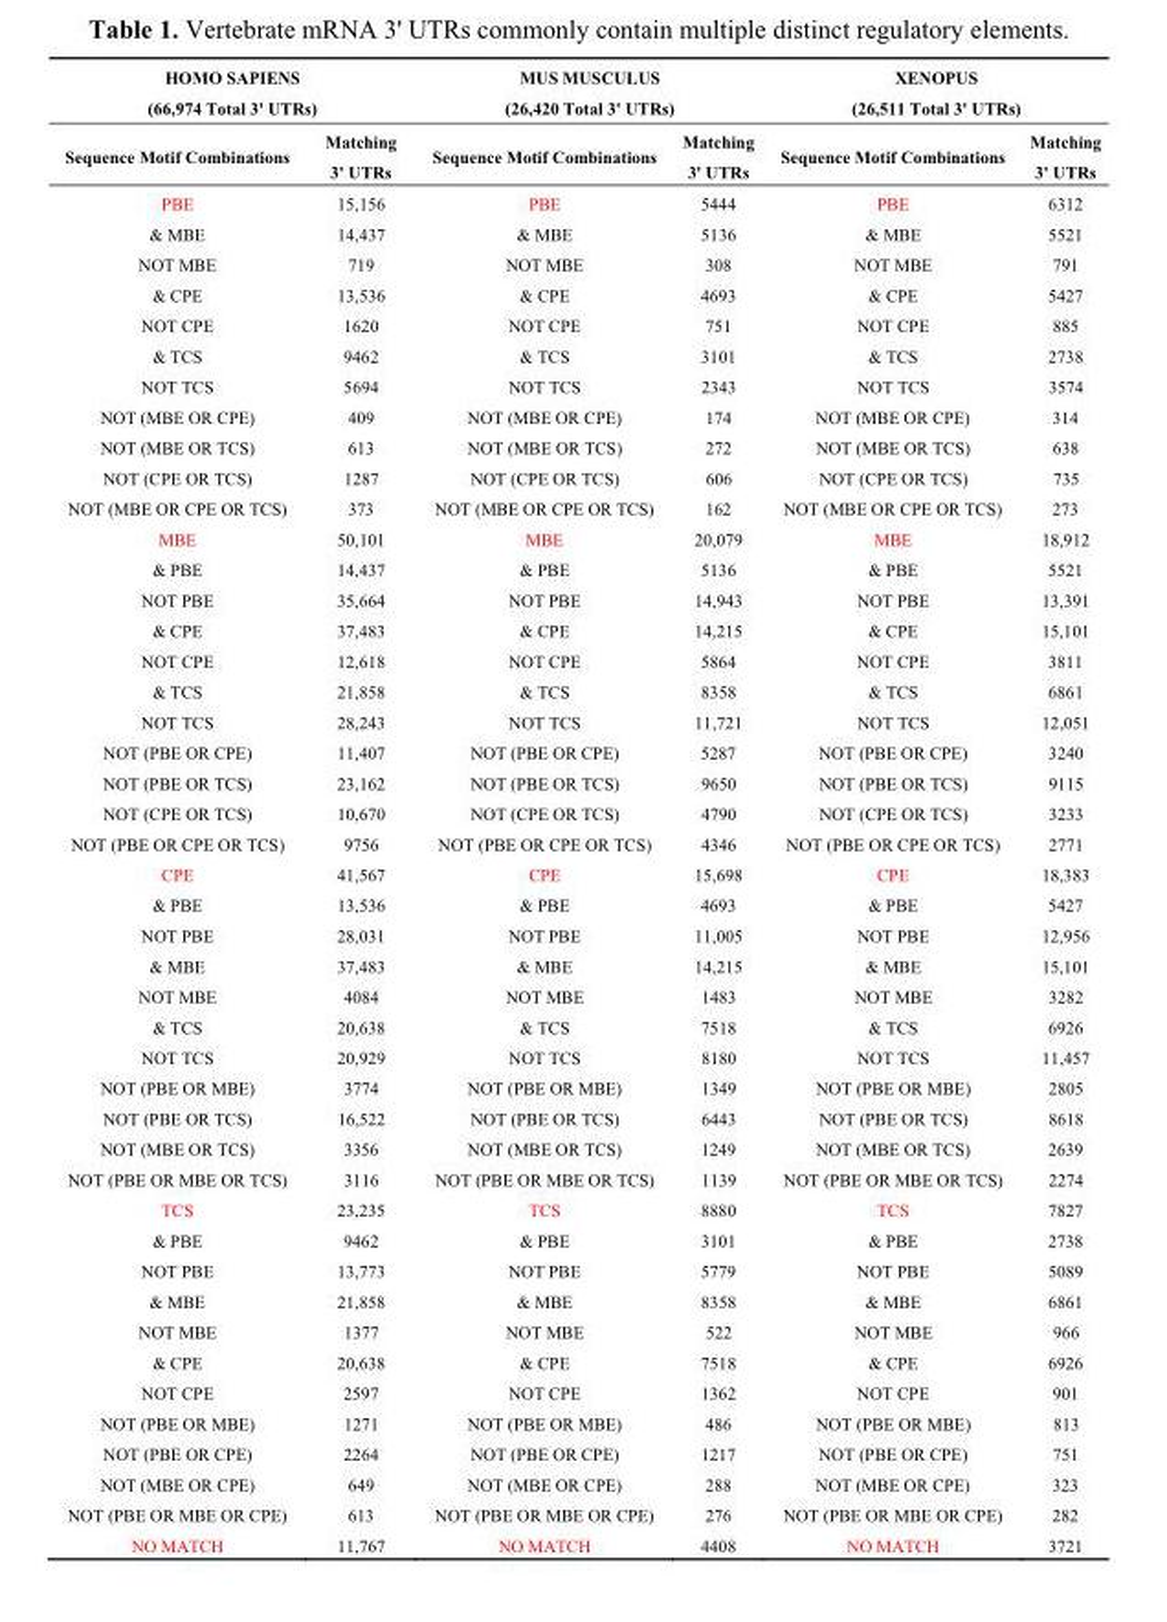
<table><thead><tr><td colspan="2">HOMO SAPIENS (66,974 Total 3&#x27; UTRs)</td><td colspan="2">MUS MUSCULUS (26,420 Total 3&#x27; UTRs)</td><td colspan="2">XENOPUS (26,511 Total 3&#x27; UTRs)</td></tr><tr><td>Sequence Motif Combinations</td><td>Matching 3&#x27; UTRs</td><td>Sequence Motif Combinations</td><td>Matching 3&#x27; UTRs</td><td>Sequence Motif Combinations</td><td>Matching 3&#x27; UTRs</td></tr></thead><tbody><tr><td>PBE</td><td>15,156</td><td>PBE</td><td>5444</td><td>PBE</td><td>6312</td></tr><tr><td>&amp; MBE</td><td>14,437</td><td>&amp; MBE</td><td>5136</td><td>&amp; MBE</td><td>5521</td></tr><tr><td>NOT MBE</td><td>719</td><td>NOT MBE</td><td>308</td><td>NOT MBE</td><td>791</td></tr><tr><td>&amp; CPE</td><td>13,536</td><td>&amp; CPE</td><td>4693</td><td>&amp; CPE</td><td>5427</td></tr><tr><td>NOT CPE</td><td>1620</td><td>NOT CPE</td><td>751</td><td>NOT CPE</td><td>885</td></tr><tr><td>&amp; TCS</td><td>9462</td><td>&amp; TCS</td><td>3101</td><td>&amp; TCS</td><td>2738</td></tr><tr><td>NOT TCS</td><td>5694</td><td>NOT TCS</td><td>2343</td><td>NOT TCS</td><td>3574</td></tr><tr><td>NOT (MBE OR CPE)</td><td>409</td><td>NOT (MBE OR CPE)</td><td>174</td><td>NOT (MBE OR CPE)</td><td>314</td></tr><tr><td>NOT (MBE OR TCS)</td><td>613</td><td>NOT (MBE OR TCS)</td><td>272</td><td>NOT (MBE OR TCS)</td><td>638</td></tr><tr><td>NOT (CPE OR TCS)</td><td>1287</td><td>NOT (CPE OR TCS)</td><td>606</td><td>NOT (CPE OR TCS)</td><td>735</td></tr><tr><td>NOT (MBE OR CPE OR TCS)</td><td>373</td><td>NOT (MBE OR CPE OR TCS)</td><td>162</td><td>NOT (MBE OR CPE OR TCS)</td><td>273</td></tr><tr><td>MBE</td><td>50,101</td><td>MBE</td><td>20,079</td><td>MBE</td><td>18,912</td></tr><tr><td>&amp; PBE</td><td>14,437</td><td>&amp; PBE</td><td>5136</td><td>&amp; PBE</td><td>5521</td></tr><tr><td>NOT PBE</td><td>35,664</td><td>NOT PBE</td><td>14,943</td><td>NOT PBE</td><td>13,391</td></tr><tr><td>&amp; CPE</td><td>37,483</td><td>&amp; CPE</td><td>14,215</td><td>&amp; CPE</td><td>15,101</td></tr><tr><td>NOT CPE</td><td>12,618</td><td>NOT CPE</td><td>5864</td><td>NOT CPE</td><td>3811</td></tr><tr><td>&amp; TCS</td><td>21,858</td><td>&amp; TCS</td><td>8358</td><td>&amp; TCS</td><td>6861</td></tr><tr><td>NOT TCS</td><td>28,243</td><td>NOT TCS</td><td>11,721</td><td>NOT TCS</td><td>12,051</td></tr><tr><td>NOT (PBE OR CPE)</td><td>11,407</td><td>NOT (PBE OR CPE)</td><td>5287</td><td>NOT (PBE OR CPE)</td><td>3240</td></tr><tr><td>NOT (PBE OR TCS)</td><td>23,162</td><td>NOT (PBE OR TCS)</td><td>9650</td><td>NOT (PBE OR TCS)</td><td>9115</td></tr><tr><td>NOT (CPE OR TCS)</td><td>10,670</td><td>NOT (CPE OR TCS)</td><td>4790</td><td>NOT (CPE OR TCS)</td><td>3233</td></tr><tr><td>NOT (PBE OR CPE OR TCS)</td><td>9756</td><td>NOT (PBE OR CPE OR TCS)</td><td>4346</td><td>NOT (PBE OR CPE OR TCS)</td><td>2771</td></tr><tr><td>CPE</td><td>41,567</td><td>CPE</td><td>15,698</td><td>CPE</td><td>18,383</td></tr><tr><td>&amp; PBE</td><td>13,536</td><td>&amp; PBE</td><td>4693</td><td>&amp; PBE</td><td>5427</td></tr><tr><td>NOT PBE</td><td>28,031</td><td>NOT PBE</td><td>11,005</td><td>NOT PBE</td><td>12,956</td></tr><tr><td>&amp; MBE</td><td>37,483</td><td>&amp; MBE</td><td>14,215</td><td>&amp; MBE</td><td>15,101</td></tr><tr><td>NOT MBE</td><td>4084</td><td>NOT MBE</td><td>1483</td><td>NOT MBE</td><td>3282</td></tr><tr><td>&amp; TCS</td><td>20,638</td><td>&amp; TCS</td><td>7518</td><td>&amp; TCS</td><td>6926</td></tr><tr><td>NOT TCS</td><td>20,929</td><td>NOT TCS</td><td>8180</td><td>NOT TCS</td><td>11,457</td></tr><tr><td>NOT (PBE OR MBE)</td><td>3774</td><td>NOT (PBE OR MBE)</td><td>1349</td><td>NOT (PBE OR MBE)</td><td>2805</td></tr><tr><td>NOT (PBE OR TCS)</td><td>16,522</td><td>NOT (PBE OR TCS)</td><td>6443</td><td>NOT (PBE OR TCS)</td><td>8618</td></tr><tr><td>NOT (MBE OR TCS)</td><td>3356</td><td>NOT (MBE OR TCS)</td><td>1249</td><td>NOT (MBE OR TCS)</td><td>2639</td></tr><tr><td>NOT (PBE OR MBE OR TCS)</td><td>3116</td><td>NOT (PBE OR MBE OR TCS)</td><td>1139</td><td>NOT (PBE OR MBE OR TCS)</td><td>2274</td></tr><tr><td>TCS</td><td>23,235</td><td>TCS</td><td>8880</td><td>TCS</td><td>7827</td></tr><tr><td>&amp; PBE</td><td>9462</td><td>&amp; PBE</td><td>3101</td><td>&amp; PBE</td><td>2738</td></tr><tr><td>NOT PBE</td><td>13,773</td><td>NOT PBE</td><td>5779</td><td>NOT PBE</td><td>5089</td></tr><tr><td>&amp; MBE</td><td>21,858</td><td>&amp; MBE</td><td>8358</td><td>&amp; MBE</td><td>6861</td></tr><tr><td>NOT MBE</td><td>1377</td><td>NOT MBE</td><td>522</td><td>NOT MBE</td><td>966</td></tr><tr><td>&amp; CPE</td><td>20,638</td><td>&amp; CPE</td><td>7518</td><td>&amp; CPE</td><td>6926</td></tr><tr><td>NOT CPE</td><td>2597</td><td>NOT CPE</td><td>1362</td><td>NOT CPE</td><td>901</td></tr><tr><td>NOT (PBE OR MBE)</td><td>1271</td><td>NOT (PBE OR MBE)</td><td>486</td><td>NOT (PBE OR MBE)</td><td>813</td></tr><tr><td>NOT (PBE OR CPE)</td><td>2264</td><td>NOT (PBE OR CPE)</td><td>1217</td><td>NOT (PBE OR CPE)</td><td>751</td></tr><tr><td>NOT (MBE OR CPE)</td><td>649</td><td>NOT (MBE OR CPE)</td><td>288</td><td>NOT (MBE OR CPE)</td><td>323</td></tr><tr><td>NOT (PBE OR MBE OR CPE)</td><td>613</td><td>NOT (PBE OR MBE OR CPE)</td><td>276</td><td>NOT (PBE OR MBE OR CPE)</td><td>282</td></tr><tr><td>NO MATCH</td><td>11,767</td><td>NO MATCH</td><td>4408</td><td>NO MATCH</td><td>3721</td></tr></tbody></table>